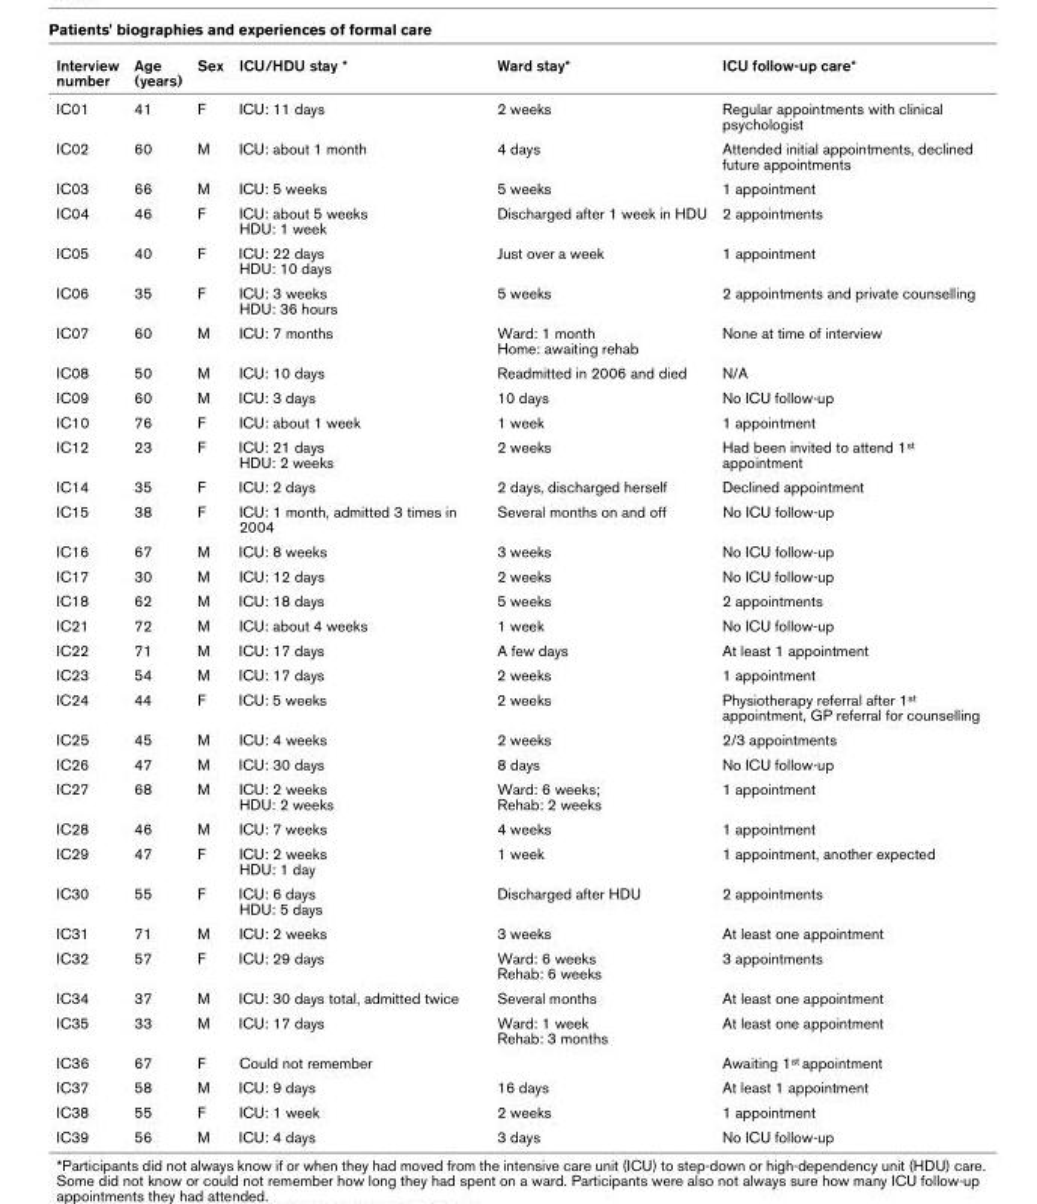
<table><thead><tr><td>Interview number</td><td>Age (years)</td><td>Sex</td><td>ICU/HDU stay *</td><td>Ward stay*</td><td>ICU follow-up care*</td></tr></thead><tbody><tr><td>IC01</td><td>41</td><td>F</td><td>ICU: 11 days</td><td>2 weeks</td><td>Regular appointments with clinical psychologist</td></tr><tr><td>IC02</td><td>60</td><td>M</td><td>ICU: about 1 month</td><td>4 days</td><td>Attended initial appointments, declined future appointments</td></tr><tr><td>IC03</td><td>66</td><td>M</td><td>ICU: 5 weeks</td><td>5 weeks</td><td>1 appointment</td></tr><tr><td>IC04</td><td>46</td><td>F</td><td>ICU: about 5 weeks HDU: 1 week</td><td>Discharged after 1 week in HDU</td><td>2 appointments</td></tr><tr><td>IC05</td><td>40</td><td>F</td><td>ICU: 22 days HDU: 10 days</td><td>Just over a week</td><td>1 appointment</td></tr><tr><td>IC06</td><td>35</td><td>F</td><td>ICU: 3 weeks HDU: 36 hours</td><td>5 weeks</td><td>2 appointments and private counselling</td></tr><tr><td>IC07</td><td>60</td><td>M</td><td>ICU: 7 months</td><td>Ward: 1 month Home: awaiting rehab</td><td>None at time of interview</td></tr><tr><td>IC08</td><td>50</td><td>M</td><td>ICU: 10 days</td><td>Readmitted in 2006 and died</td><td>N/A</td></tr><tr><td>IC09</td><td>60</td><td>M</td><td>ICU: 3 days</td><td>10 days</td><td>No ICU follow-up</td></tr><tr><td>IC10</td><td>76</td><td>F</td><td>ICU: about 1 week</td><td>1 week</td><td>1 appointment</td></tr><tr><td>IC12</td><td>23</td><td>F</td><td>ICU: 21 days HDU: 2 weeks</td><td>2 weeks</td><td>Had been invited to attend 1<sup>st</sup> appointment</td></tr><tr><td>IC14</td><td>35</td><td>F</td><td>ICU: 2 days</td><td>2 days, discharged herself</td><td>Declined appointment</td></tr><tr><td>IC15</td><td>38</td><td>F</td><td>ICU: 1 month, admitted 3 times in 2004</td><td>Several months on and off</td><td>No ICU follow-up</td></tr><tr><td>IC16</td><td>67</td><td>M</td><td>ICU: 8 weeks</td><td>3 weeks</td><td>No ICU follow-up</td></tr><tr><td>IC17</td><td>30</td><td>M</td><td>ICU: 12 days</td><td>2 weeks</td><td>No ICU follow-up</td></tr><tr><td>IC18</td><td>62</td><td>M</td><td>ICU: 18 days</td><td>5 weeks</td><td>2 appointments</td></tr><tr><td>IC21</td><td>72</td><td>M</td><td>ICU: about 4 weeks</td><td>1 week</td><td>No ICU follow-up</td></tr><tr><td>IC22</td><td>71</td><td>M</td><td>ICU: 17 days</td><td>A few days</td><td>At least 1 appointment</td></tr><tr><td>IC23</td><td>54</td><td>M</td><td>ICU: 17 days</td><td>2 weeks</td><td>1 appointment</td></tr><tr><td>IC24</td><td>44</td><td>F</td><td>ICU: 5 weeks</td><td>2 weeks</td><td>Physiotherapy referral after 1<sup>st</sup> appointment, GP referral for counselling</td></tr><tr><td>IC25</td><td>45</td><td>M</td><td>ICU: 4 weeks</td><td>2 weeks</td><td>2/3 appointments</td></tr><tr><td>IC26</td><td>47</td><td>M</td><td>ICU: 30 days</td><td>8 days</td><td>No ICU follow-up</td></tr><tr><td>IC27</td><td>68</td><td>M</td><td>ICU: 2 weeks HDU: 2 weeks</td><td>Ward: 6 weeks; Rehab: 2 weeks</td><td>1 appointment</td></tr><tr><td>IC28</td><td>46</td><td>M</td><td>ICU: 7 weeks</td><td>4 weeks</td><td>1 appointment</td></tr><tr><td>IC29</td><td>47</td><td>F</td><td>ICU: 2 weeks HDU: 1 day</td><td>1 week</td><td>1 appointment, another expected</td></tr><tr><td>IC30</td><td>55</td><td>F</td><td>ICU: 6 days HDU: 5 days</td><td>Discharged after HDU</td><td>2 appointments</td></tr><tr><td>IC31</td><td>71</td><td>M</td><td>ICU: 2 weeks</td><td>3 weeks</td><td>At least one appointment</td></tr><tr><td>IC32</td><td>57</td><td>F</td><td>ICU: 29 days</td><td>Ward: 6 weeks Rehab: 6 weeks</td><td>3 appointments</td></tr><tr><td>IC34</td><td>37</td><td>M</td><td>ICU: 30 days total, admitted twice</td><td>Several months</td><td>At least one appointment</td></tr><tr><td>IC35</td><td>33</td><td>M</td><td>ICU: 17 days</td><td>Ward: 1 week Rehab: 3 months</td><td>At least one appointment</td></tr><tr><td>IC36</td><td>67</td><td>F</td><td>Could not remember</td><td></td><td>Awaiting 1<sup>st</sup> appointment</td></tr><tr><td>IC37</td><td>58</td><td>M</td><td>ICU: 9 days</td><td>16 days</td><td>At least 1 appointment</td></tr><tr><td>IC38</td><td>55</td><td>F</td><td>ICU: 1 week</td><td>2 weeks</td><td>1 appointment</td></tr><tr><td>IC39</td><td>56</td><td>M</td><td>ICU: 4 days</td><td>3 days</td><td>No ICU follow-up</td></tr></tbody></table>